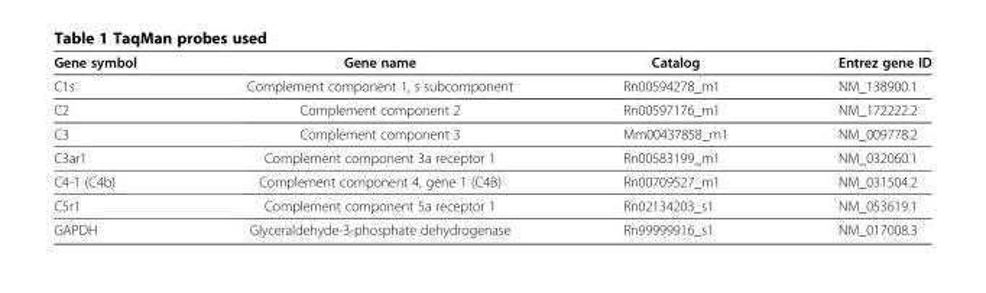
<table><thead><tr><td>Gene symbol</td><td>Gene name</td><td>Catalog</td><td>Entrez gene ID</td></tr></thead><tbody><tr><td>C1s</td><td>Complement component 1, s subcomponent</td><td>Rn00594278_m1</td><td>NM_138900.1</td></tr><tr><td>C2</td><td>Complement component 2</td><td>Rn00597176_m1</td><td>NM_172222.2</td></tr><tr><td>C3</td><td>Complement component 3</td><td>Mm00437858_m1</td><td>NM_009778.2</td></tr><tr><td>C3ar1</td><td>Complement component 3a receptor 1</td><td>Rn00583199_m1</td><td>NM_032060.1</td></tr><tr><td>C4-1 (C4b)</td><td>Complement component 4, gene 1 (C4B)</td><td>Rn00709527_m1</td><td>NM_031504.2</td></tr><tr><td>C5r1</td><td>Complement component 5a receptor 1</td><td>Rn02134203_s1</td><td>NM_053619.1</td></tr><tr><td>GAPDH</td><td>Glyceraldehyde-3-phosphate dehydrogenase</td><td>Rn99999916_s1</td><td>NM_017008.3</td></tr></tbody></table>